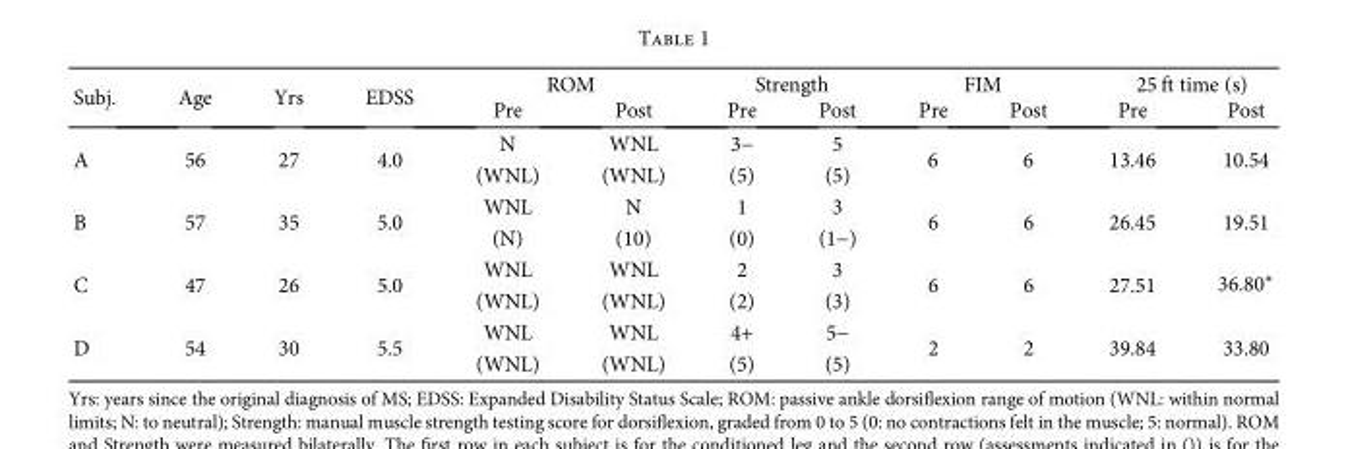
<table><thead><tr><td rowspan="2">Subj.</td><td rowspan="2">Age</td><td rowspan="2">Yrs</td><td rowspan="2">EDSS</td><td colspan="2">ROM</td><td colspan="2">Strength</td><td colspan="2">FIM</td><td colspan="2">25 ft time (s)</td></tr><tr><td>Pre</td><td>Post</td><td>Pre</td><td>Post</td><td>Pre</td><td>Post</td><td>Pre</td><td>Post</td></tr></thead><tbody><tr><td rowspan="2">A</td><td rowspan="2">56</td><td rowspan="2">27</td><td rowspan="2">4.0</td><td>N</td><td>WNL</td><td>3−</td><td>5</td><td rowspan="2">6</td><td rowspan="2">6</td><td rowspan="2">13.46</td><td rowspan="2">10.54</td></tr><tr><td>(WNL)</td><td>(WNL)</td><td>(5)</td><td>(5)</td></tr><tr><td rowspan="2">B</td><td rowspan="2">57</td><td rowspan="2">35</td><td rowspan="2">5.0</td><td>WNL</td><td>N</td><td>1</td><td>3</td><td rowspan="2">6</td><td rowspan="2">6</td><td rowspan="2">26.45</td><td rowspan="2">19.51</td></tr><tr><td>(N)</td><td>(10)</td><td>(0)</td><td>(1−)</td></tr><tr><td rowspan="2">C</td><td rowspan="2">47</td><td rowspan="2">26</td><td rowspan="2">5.0</td><td>WNL</td><td>WNL</td><td>2</td><td>3</td><td rowspan="2">6</td><td rowspan="2">6</td><td rowspan="2">27.51</td><td rowspan="2">36.80∗</td></tr><tr><td>(WNL)</td><td>(WNL)</td><td>(2)</td><td>(3)</td></tr><tr><td rowspan="2">D</td><td rowspan="2">54</td><td rowspan="2">30</td><td rowspan="2">5.5</td><td>WNL</td><td>WNL</td><td>4+</td><td>5−</td><td rowspan="2">2</td><td rowspan="2">2</td><td rowspan="2">39.84</td><td rowspan="2">33.80</td></tr><tr><td>(WNL)</td><td>(WNL)</td><td>(5)</td><td>(5)</td></tr></tbody></table>